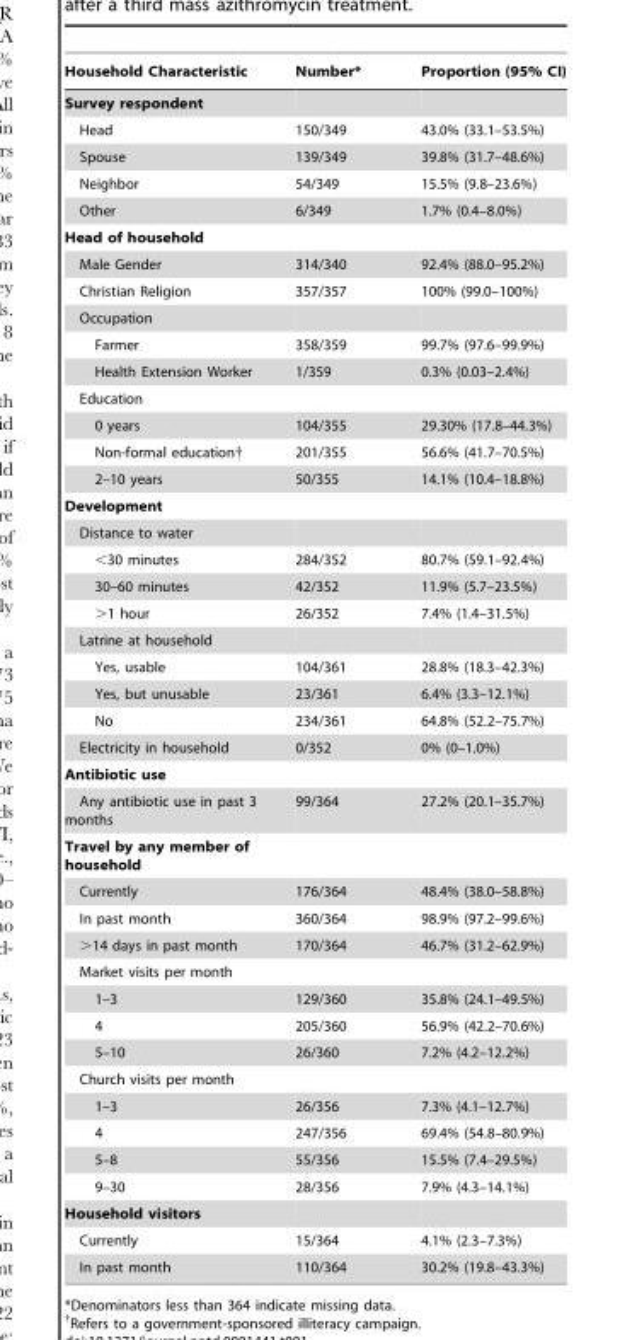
<table><thead><tr><td>Household Characteristic</td><td>Number*</td><td>Proportion (95% CI)</td></tr></thead><tbody><tr><td colspan="3">Survey respondent</td></tr><tr><td>Head</td><td>150/349</td><td>43.0% (33.1–53.5%)</td></tr><tr><td>Spouse</td><td>139/349</td><td>39.8% (31.7–48.6%)</td></tr><tr><td>Neighbor</td><td>54/349</td><td>15.5% (9.8–23.6%)</td></tr><tr><td>Other</td><td>6/349</td><td>1.7% (0.4–8.0%)</td></tr><tr><td colspan="3">Head of household</td></tr><tr><td>Male Gender</td><td>314/340</td><td>92.4% (88.0–95.2%)</td></tr><tr><td>Christian Religion</td><td>357/357</td><td>100% (99.0–100%)</td></tr><tr><td colspan="3">Occupation</td></tr><tr><td>Farmer</td><td>358/359</td><td>99.7% (97.6–99.9%)</td></tr><tr><td>Health Extension Worker</td><td>1/359</td><td>0.3% (0.03–2.4%)</td></tr><tr><td colspan="3">Education</td></tr><tr><td>0 years</td><td>104/355</td><td>29.30% (17.8–44.3%)</td></tr><tr><td>Non-formal education†</td><td>201/355</td><td>56.6% (41.7–70.5%)</td></tr><tr><td>2–10 years</td><td>50/355</td><td>14.1% (10.4–18.8%)</td></tr><tr><td colspan="3">Development</td></tr><tr><td colspan="3">Distance to water</td></tr><tr><td>&lt;30 minutes</td><td>284/352</td><td>80.7% (59.1–92.4%)</td></tr><tr><td>30–60 minutes</td><td>42/352</td><td>11.9% (5.7–23.5%)</td></tr><tr><td>&gt;1 hour</td><td>26/352</td><td>7.4% (1.4–31.5%)</td></tr><tr><td colspan="3">Latrine at household</td></tr><tr><td>Yes, usable</td><td>104/361</td><td>28.8% (18.3–42.3%)</td></tr><tr><td>Yes, but unusable</td><td>23/361</td><td>6.4% (3.3–12.1%)</td></tr><tr><td>No</td><td>234/361</td><td>64.8% (52.2–75.7%)</td></tr><tr><td>Electricity in household</td><td>0/352</td><td>0% (0–1.0%)</td></tr><tr><td colspan="3">Antibiotic use</td></tr><tr><td>Any antibiotic use in past 3 months</td><td>99/364</td><td>27.2% (20.1–35.7%)</td></tr><tr><td colspan="3">Travel by any member of household</td></tr><tr><td>Currently</td><td>176/364</td><td>48.4% (38.0–58.8%)</td></tr><tr><td>In past month</td><td>360/364</td><td>98.9% (97.2–99.6%)</td></tr><tr><td>&gt;14 days in past month</td><td>170/364</td><td>46.7% (31.2–62.9%)</td></tr><tr><td colspan="3">Market visits per month</td></tr><tr><td>1–3</td><td>129/360</td><td>35.8% (24.1–49.5%)</td></tr><tr><td>4</td><td>205/360</td><td>56.9% (42.2–70.6%)</td></tr><tr><td>5–10</td><td>26/360</td><td>7.2% (4.2–12.2%)</td></tr><tr><td colspan="3">Church visits per month</td></tr><tr><td>1–3</td><td>26/356</td><td>7.3% (4.1–12.7%)</td></tr><tr><td>4</td><td>247/356</td><td>69.4% (54.8–80.9%)</td></tr><tr><td>5–8</td><td>55/356</td><td>15.5% (7.4–29.5%)</td></tr><tr><td>9–30</td><td>28/356</td><td>7.9% (4.3–14.1%)</td></tr><tr><td colspan="3">Household visitors</td></tr><tr><td>Currently</td><td>15/364</td><td>4.1% (2.3–7.3%)</td></tr><tr><td>In past month</td><td>110/364</td><td>30.2% (19.8–43.3%)</td></tr></tbody></table>